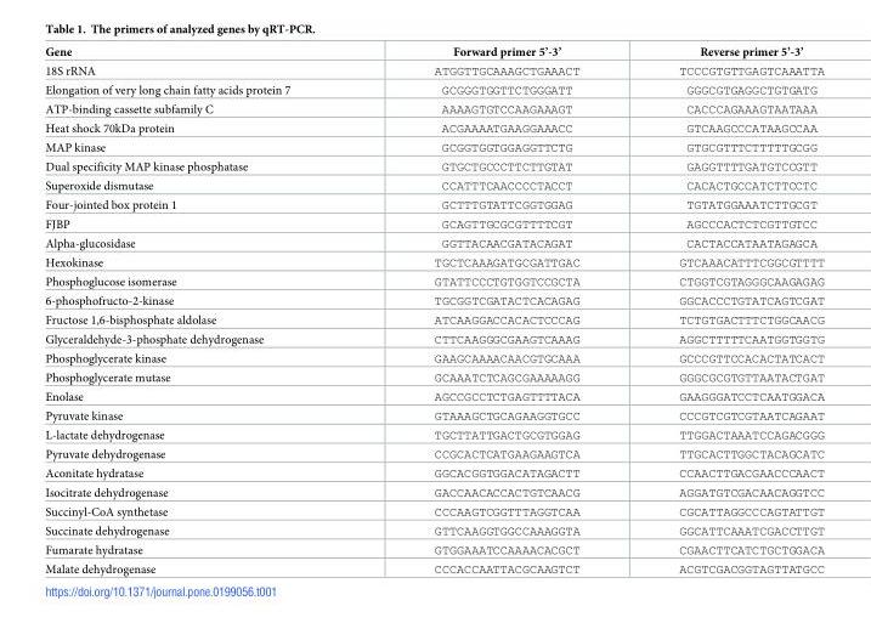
<table><thead><tr><td>Gene</td><td>Forward primer 5’-3’</td><td>Reverse primer 5’-3’</td></tr></thead><tbody><tr><td>18S rRNA</td><td>ATGGTTGCAAAGCTGAAACT</td><td>TCCCGTGTTGAGTCAAATTA</td></tr><tr><td>Elongation of very long chain fatty acids protein 7</td><td>GCGGGTGGTTCTGGGATT</td><td>GGGCGTGAGGCTGTGATG</td></tr><tr><td>ATP-binding cassette subfamily C</td><td>AAAAGTGTCCAAGAAAGT</td><td>CACCCAGAAAGTAATAAA</td></tr><tr><td>Heat shock 70kDa protein</td><td>ACGAAAATGAAGGAAACC</td><td>GTCAAGCCCATAAGCCAA</td></tr><tr><td>MAP kinase</td><td>GCGGTGGTGGAGGTTCTG</td><td>GTGCGTTTCTTTTTGCGG</td></tr><tr><td>Dual specificity MAP kinase phosphatase</td><td>GTGCTGCCCTTCTTGTAT</td><td>GAGGTTTTGATGTCCGTT</td></tr><tr><td>Superoxide dismutase</td><td>CCATTTCAACCCCTACCT</td><td>CACACTGCCATCTTCCTC</td></tr><tr><td>Four-jointed box protein 1</td><td>GCTTTGTATTCGGTGGAG</td><td>TGTATGGAAATCTTGCGT</td></tr><tr><td>FJBP</td><td>GCAGTTGCGCGTTTTCGT</td><td>AGCCCACTCTCGTTGTCC</td></tr><tr><td>Alpha-glucosidase</td><td>GGTTACAACGATACAGAT</td><td>CACTACCATAATAGAGCA</td></tr><tr><td>Hexokinase</td><td>TGCTCAAAGATGCGATTGAC</td><td>GTCAAACATTTCGGCGTTTT</td></tr><tr><td>Phosphoglucose isomerase</td><td>GTATTCCCTGTGGTCCGCTA</td><td>CTGGTCGTAGGGCAAGAGAG</td></tr><tr><td>6-phosphofructo-2-kinase</td><td>TGCGGTCGATACTCACAGAG</td><td>GGCACCCTGTATCAGTCGAT</td></tr><tr><td>Fructose 1,6-bisphosphate aldolase</td><td>ATCAAGGACCACACTCCCAG</td><td>TCTGTGACTTTCTGGCAACG</td></tr><tr><td>Glyceraldehyde-3-phosphate dehydrogenase</td><td>CTTCAAGGGCGAAGTCAAAG</td><td>AGGCTTTTTCAATGGTGGTG</td></tr><tr><td>Phosphoglycerate kinase</td><td>GAAGCAAAACAACGTGCAAA</td><td>GCCCGTTCCACACTATCACT</td></tr><tr><td>Phosphoglycerate mutase</td><td>GCAAATCTCAGCGAAAAAGG</td><td>GGGCGCGTGTTAATACTGAT</td></tr><tr><td>Enolase</td><td>AGCCGCCTCTGAGTTTTACA</td><td>GAAGGGATCCTCAATGGACA</td></tr><tr><td>Pyruvate kinase</td><td>GTAAAGCTGCAGAAGGTGCC</td><td>CCCGTCGTCGTAATCAGAAT</td></tr><tr><td>L-lactate dehydrogenase</td><td>TGCTTATTGACTGCGTGGAG</td><td>TTGGACTAAATCCAGACGGG</td></tr><tr><td>Pyruvate dehydrogenase</td><td>CCGCACTCATGAAGAAGTCA</td><td>TTGCACTTGGCTACAGCATC</td></tr><tr><td>Aconitate hydratase</td><td>GGCACGGTGGACATAGACTT</td><td>CCAACTTGACGAACCCAACT</td></tr><tr><td>Isocitrate dehydrogenase</td><td>GACCAACACCACTGTCAACG</td><td>AGGATGTCGACAACAGGTCC</td></tr><tr><td>Succinyl-CoA synthetase</td><td>CCCAAGTCGGTTTAGGTCAA</td><td>CGCATTAGGCCCAGTATTGT</td></tr><tr><td>Succinate dehydrogenase</td><td>GTTCAAGGTGGCCAAAGGTA</td><td>GGCATTCAAATCGACCTTGT</td></tr><tr><td>Fumarate hydratase</td><td>GTGGAAATCCAAAACACGCT</td><td>CGAACTTCATCTGCTGGACA</td></tr><tr><td>Malate dehydrogenase</td><td>CCCACCAATTACGCAAGTCT</td><td>ACGTCGACGGTAGTTATGCC</td></tr></tbody></table>